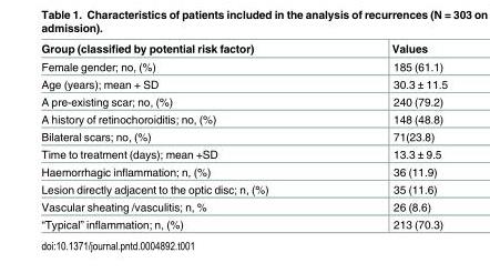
<table><thead><tr><td>Group (classified by potential risk factor)</td><td>Values</td></tr></thead><tbody><tr><td>Female gender; no, (%)</td><td>185 (61.1)</td></tr><tr><td>Age (years); mean + SD</td><td>30.3 ± 11.5</td></tr><tr><td>A pre-existing scar; no, (%)</td><td>240 (79.2)</td></tr><tr><td>A history of retinochoroiditis; no, (%)</td><td>148 (48.8)</td></tr><tr><td>Bilateral scars; no, (%)</td><td>71(23.8)</td></tr><tr><td>Time to treatment (days); mean +SD</td><td>13.3 ± 9.5</td></tr><tr><td>Haemorrhagic inflammation; n, (%)</td><td>36 (11.9)</td></tr><tr><td>Lesion directly adjacent to the optic disc; n, (%)</td><td>35 (11.6)</td></tr><tr><td>Vascular sheating /vasculitis; n, %</td><td>26 (8.6)</td></tr><tr><td>“Typical” inflammation; n, (%)</td><td>213 (70.3)</td></tr></tbody></table>